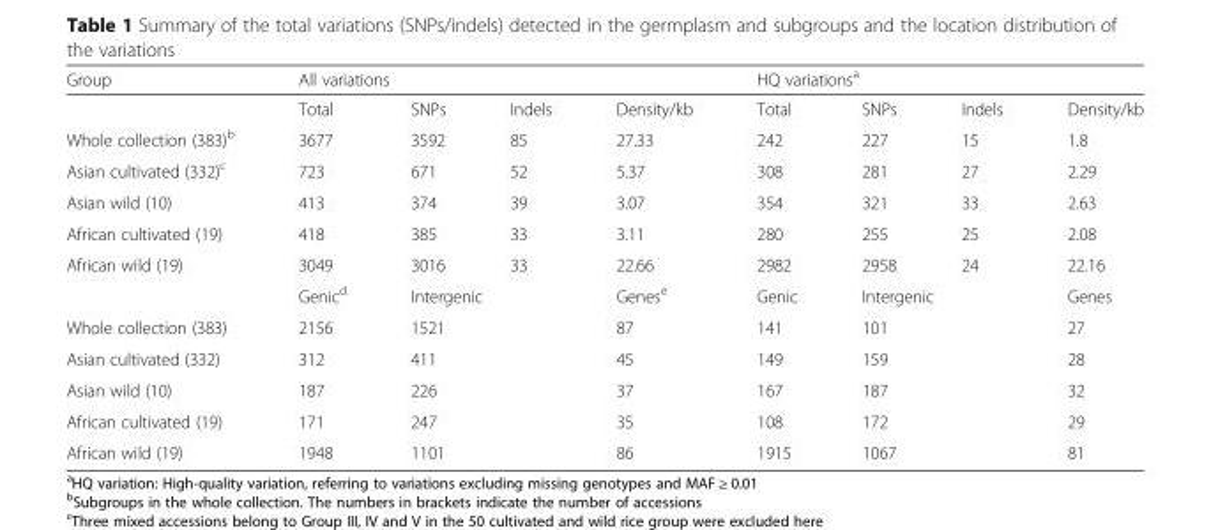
<table><thead><tr><td rowspan="2">Group</td><td colspan="4">All variations</td><td colspan="4">HQ variations<sup>a</sup></td></tr><tr><td>Total</td><td>SNPs</td><td>Indels</td><td>Density/kb</td><td>Total</td><td>SNPs</td><td>Indels</td><td>Density/kb</td></tr></thead><tbody><tr><td>Whole collection (383)<sup>b</sup></td><td>3677</td><td>3592</td><td>85</td><td>27.33</td><td>242</td><td>227</td><td>15</td><td>1.8</td></tr><tr><td>Asian cultivated (332)<sup>c</sup></td><td>723</td><td>671</td><td>52</td><td>5.37</td><td>308</td><td>281</td><td>27</td><td>2.29</td></tr><tr><td>Asian wild (10)</td><td>413</td><td>374</td><td>39</td><td>3.07</td><td>354</td><td>321</td><td>33</td><td>2.63</td></tr><tr><td>African cultivated (19)</td><td>418</td><td>385</td><td>33</td><td>3.11</td><td>280</td><td>255</td><td>25</td><td>2.08</td></tr><tr><td rowspan="2">African wild (19)</td><td>3049</td><td>3016</td><td>33</td><td>22.66</td><td>2982</td><td>2958</td><td>24</td><td>22.16</td></tr><tr><td>Genic<sup>d</sup></td><td colspan="2">Intergenic</td><td>Genes<sup>e</sup></td><td>Genic</td><td colspan="2">Intergenic</td><td>Genes</td></tr><tr><td>Whole collection (383)</td><td>2156</td><td colspan="2">1521</td><td>87</td><td>141</td><td colspan="2">101</td><td>27</td></tr><tr><td>Asian cultivated (332)</td><td>312</td><td colspan="2">411</td><td>45</td><td>149</td><td colspan="2">159</td><td>28</td></tr><tr><td>Asian wild (10)</td><td>187</td><td colspan="2">226</td><td>37</td><td>167</td><td colspan="2">187</td><td>32</td></tr><tr><td>African cultivated (19)</td><td>171</td><td colspan="2">247</td><td>35</td><td>108</td><td colspan="2">172</td><td>29</td></tr><tr><td>African wild (19)</td><td>1948</td><td colspan="2">1101</td><td>86</td><td>1915</td><td colspan="2">1067</td><td>81</td></tr></tbody></table>